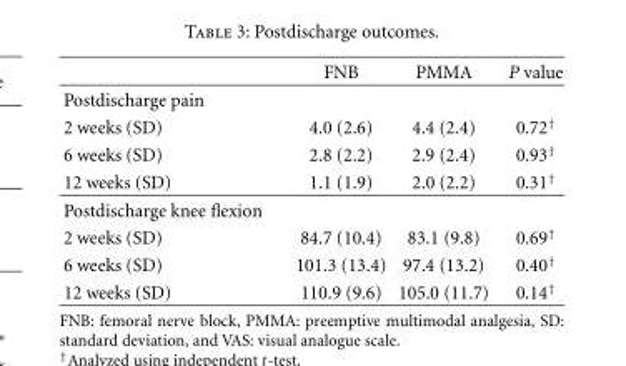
<table><thead><tr><td></td><td>FNB</td><td>PMMA</td><td>P value</td></tr></thead><tbody><tr><td colspan="4">Postdischarge pain</td></tr><tr><td>2 weeks (SD)</td><td>4.0 (2.6)</td><td>4.4 (2.4)</td><td>0.72<sup>†</sup></td></tr><tr><td>6 weeks (SD)</td><td>2.8 (2.2)</td><td>2.9 (2.4)</td><td>0.93<sup>†</sup></td></tr><tr><td>12 weeks (SD)</td><td>1.1 (1.9)</td><td>2.0 (2.2)</td><td>0.31<sup>†</sup></td></tr><tr><td colspan="4">Postdischarge knee flexion</td></tr><tr><td>2 weeks (SD)</td><td>84.7 (10.4)</td><td>83.1 (9.8)</td><td>0.69<sup>†</sup></td></tr><tr><td>6 weeks (SD)</td><td>101.3 (13.4)</td><td>97.4 (13.2)</td><td>0.40<sup>†</sup></td></tr><tr><td>12 weeks (SD)</td><td>110.9 (9.6)</td><td>105.0 (11.7)</td><td>0.14<sup>†</sup></td></tr></tbody></table>